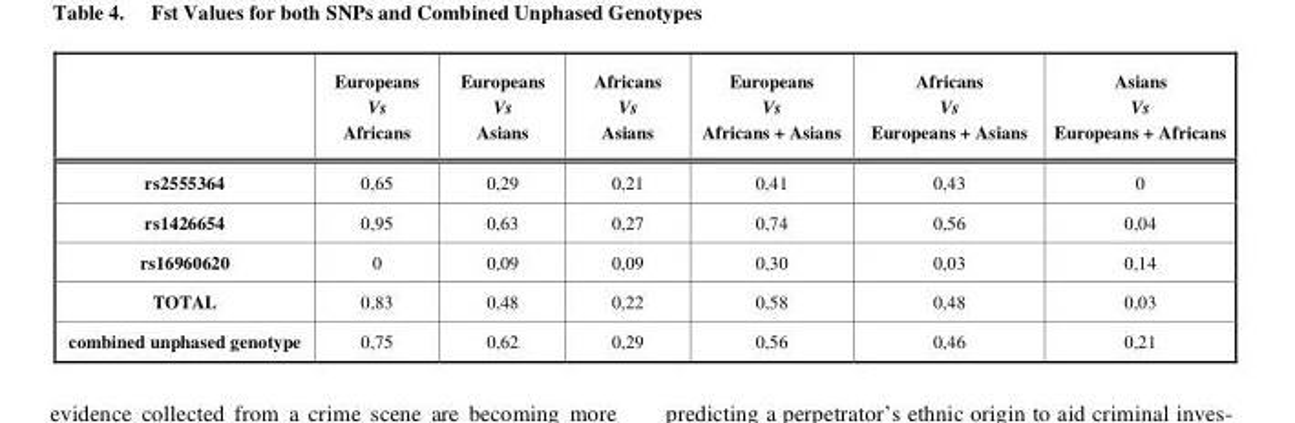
<table><thead><tr><td></td><td>Europeans Vs Africans</td><td>Europeans Vs Asians</td><td>Africans Vs Asians</td><td>Europeans Vs Africans + Asians</td><td>Africans Vs Europeans + Asians</td><td>Asians Vs Europeans + Africans</td></tr></thead><tbody><tr><td>rs2555364</td><td>0,65</td><td>0,29</td><td>0,21</td><td>0,41</td><td>0,43</td><td>0</td></tr><tr><td>rs1426654</td><td>0,95</td><td>0,63</td><td>0,27</td><td>0,74</td><td>0,56</td><td>0,04</td></tr><tr><td>rs16960620</td><td>0</td><td>0,09</td><td>0,09</td><td>0,30</td><td>0,03</td><td>0,14</td></tr><tr><td>TOTAL</td><td>0,83</td><td>0,48</td><td>0,22</td><td>0,58</td><td>0,48</td><td>0,03</td></tr><tr><td>combined unphased genotype</td><td>0,75</td><td>0,62</td><td>0,29</td><td>0,56</td><td>0,46</td><td>0,21</td></tr></tbody></table>